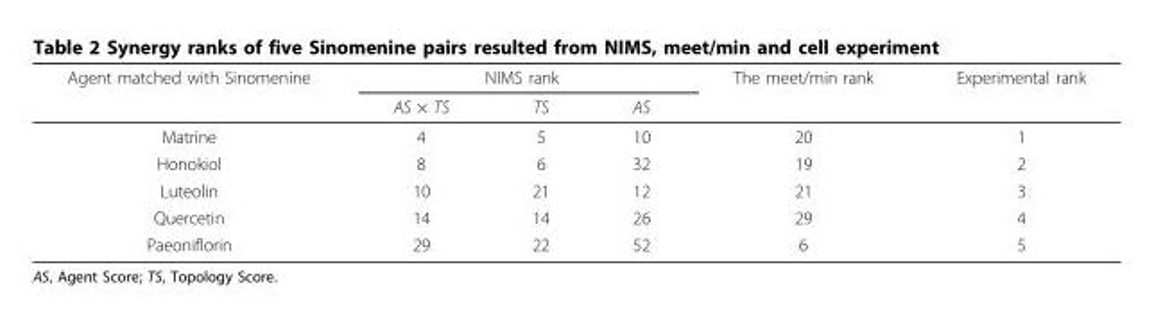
<table><thead><tr><td rowspan="2">Agent matched with Sinomenine</td><td colspan="3">NIMS rank</td><td rowspan="2">The meet/min rank</td><td rowspan="2">Experimental rank</td></tr><tr><td>AS × TS</td><td>TS</td><td>AS</td></tr></thead><tbody><tr><td>Matrine</td><td>4</td><td>5</td><td>10</td><td>20</td><td>1</td></tr><tr><td>Honokiol</td><td>8</td><td>6</td><td>32</td><td>19</td><td>2</td></tr><tr><td>Luteolin</td><td>10</td><td>21</td><td>12</td><td>21</td><td>3</td></tr><tr><td>Quercetin</td><td>14</td><td>14</td><td>26</td><td>29</td><td>4</td></tr><tr><td>Paeoniflorin</td><td>29</td><td>22</td><td>52</td><td>6</td><td>5</td></tr></tbody></table>